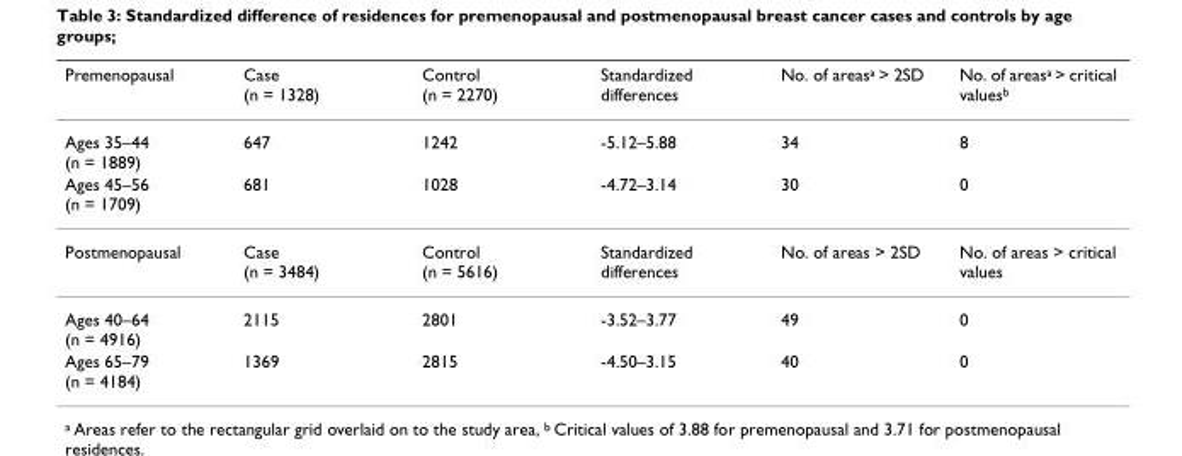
<table><thead><tr><td>Premenopausal</td><td>Case (n = 1328)</td><td>Control (n = 2270)</td><td>Standardized differences</td><td>No. of areas<sup>a</sup> &gt; 2SD</td><td>No. of areas<sup>a</sup> &gt; critical values<sup>b</sup></td></tr></thead><tbody><tr><td>Ages 35–44 (n = 1889)</td><td>647</td><td>1242</td><td>-5.12–5.88</td><td>34</td><td>8</td></tr><tr><td>Ages 45–56 (n = 1709)</td><td>681</td><td>1028</td><td>-4.72–3.14</td><td>30</td><td>0</td></tr><tr><td>Postmenopausal</td><td>Case (n = 3484)</td><td>Control (n = 5616)</td><td>Standardized differences</td><td>No. of areas &gt; 2SD</td><td>No. of areas &gt; critical values</td></tr><tr><td>Ages 40–64 (n = 4916)</td><td>2115</td><td>2801</td><td>-3.52–3.77</td><td>49</td><td>0</td></tr><tr><td>Ages 65–79 (n = 4184)</td><td>1369</td><td>2815</td><td>-4.50–3.15</td><td>40</td><td>0</td></tr></tbody></table>